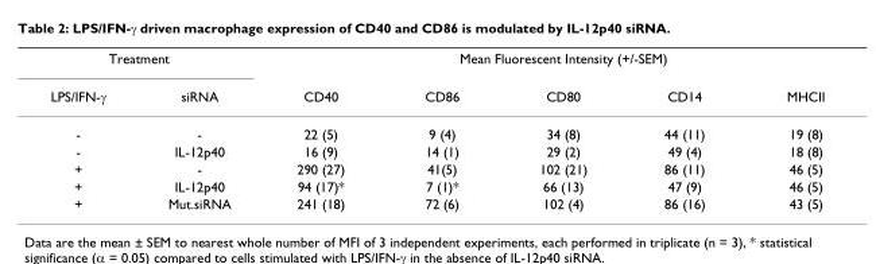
<table><thead><tr><td colspan="2">Treatment</td><td colspan="5">Mean Fluorescent Intensity (+/-SEM)</td></tr><tr><td>LPS/IFN-γ</td><td>siRNA</td><td>CD40</td><td>CD86</td><td>CD80</td><td>CD14</td><td>MHCII</td></tr></thead><tbody><tr><td>-</td><td>-</td><td>22 (5)</td><td>9 (4)</td><td>34 (8)</td><td>44 (11)</td><td>19 (8)</td></tr><tr><td>-</td><td>IL-12p40</td><td>16 (9)</td><td>14 (1)</td><td>29 (2)</td><td>49 (4)</td><td>18 (8)</td></tr><tr><td>+</td><td>-</td><td>290 (27)</td><td>41(5)</td><td>102 (21)</td><td>86 (11)</td><td>46 (5)</td></tr><tr><td>+</td><td>IL-12p40</td><td>94 (17)*</td><td>7 (1)*</td><td>66 (13)</td><td>47 (9)</td><td>46 (5)</td></tr><tr><td>+</td><td>Mut.siRNA</td><td>241 (18)</td><td>72 (6)</td><td>102 (4)</td><td>86 (16)</td><td>43 (5)</td></tr></tbody></table>